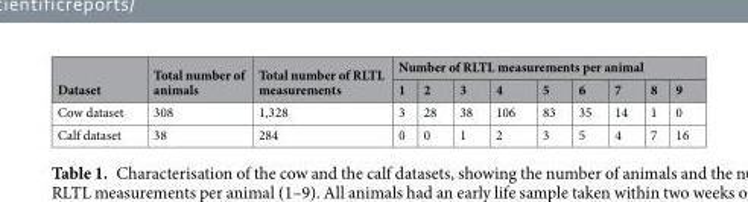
<table><thead><tr><td rowspan="2">Dataset</td><td rowspan="2">Total number of animals</td><td rowspan="2">Total number of RLTL measurements</td><td colspan="9">Number of RLTL measurements per animal</td></tr><tr><td>1</td><td>2</td><td>3</td><td>4</td><td>5</td><td>6</td><td>7</td><td>8</td><td>9</td></tr></thead><tbody><tr><td>Cow dataset</td><td>308</td><td>1,328</td><td>3</td><td>28</td><td>38</td><td>106</td><td>83</td><td>35</td><td>14</td><td>1</td><td>0</td></tr><tr><td>Calf dataset</td><td>38</td><td>284</td><td>0</td><td>0</td><td>1</td><td>2</td><td>3</td><td>5</td><td>4</td><td>7</td><td>16</td></tr></tbody></table>